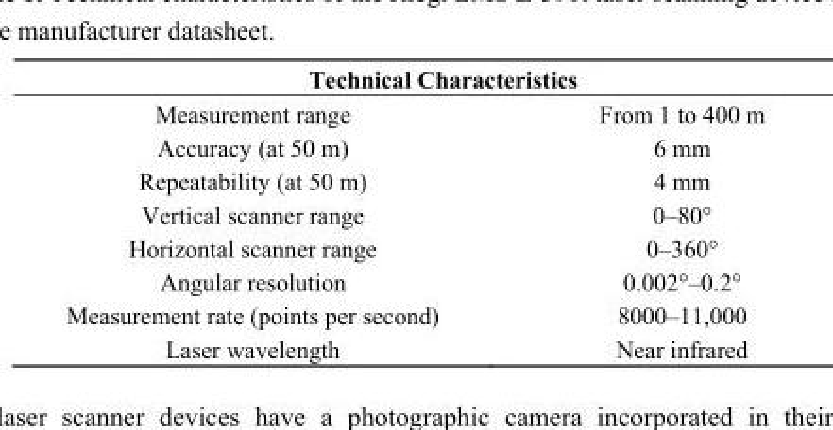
<table><thead><tr><td colspan="2">Technical Characteristics</td></tr><tr><td>Measurement range</td><td>From 1 to 400 m</td></tr></thead><tbody><tr><td>Accuracy (at 50 m)</td><td>6 mm</td></tr><tr><td>Repeatability (at 50 m)</td><td>4 mm</td></tr><tr><td>Vertical scanner range</td><td>0–80°</td></tr><tr><td>Horizontal scanner range</td><td>0–360°</td></tr><tr><td>Angular resolution</td><td>0.002°–0.2°</td></tr><tr><td>Measurement rate (points per second)</td><td>8000–11,000</td></tr><tr><td>Laser wavelength</td><td>Near infrared</td></tr></tbody></table>